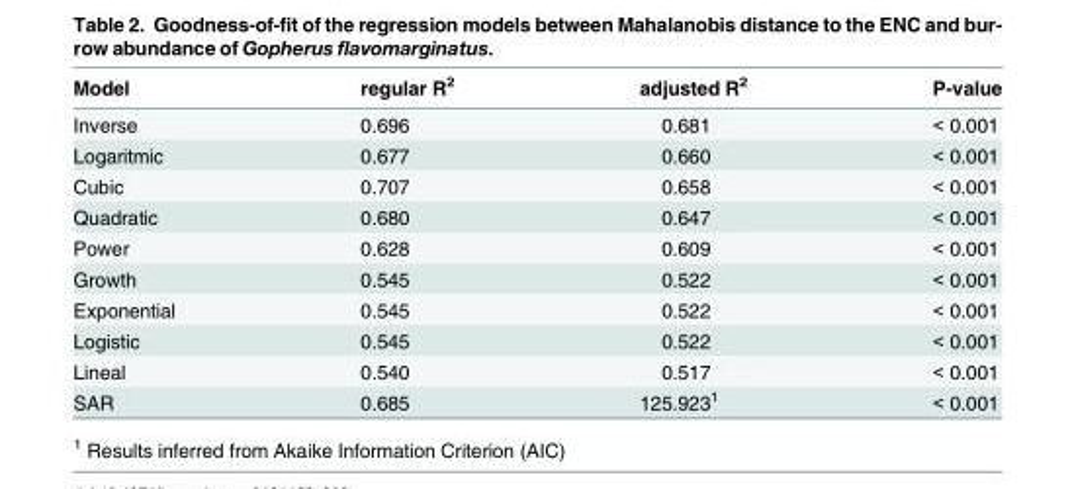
<table><thead><tr><td>Model</td><td>regular R<sup>2</sup></td><td>adjusted R<sup>2</sup></td><td>P-value</td></tr></thead><tbody><tr><td>Inverse</td><td>0.696</td><td>0.681</td><td>&lt; 0.001</td></tr><tr><td>Logaritmic</td><td>0.677</td><td>0.660</td><td>&lt; 0.001</td></tr><tr><td>Cubic</td><td>0.707</td><td>0.658</td><td>&lt; 0.001</td></tr><tr><td>Quadratic</td><td>0.680</td><td>0.647</td><td>&lt; 0.001</td></tr><tr><td>Power</td><td>0.628</td><td>0.609</td><td>&lt; 0.001</td></tr><tr><td>Growth</td><td>0.545</td><td>0.522</td><td>&lt; 0.001</td></tr><tr><td>Exponential</td><td>0.545</td><td>0.522</td><td>&lt; 0.001</td></tr><tr><td>Logistic</td><td>0.545</td><td>0.522</td><td>&lt; 0.001</td></tr><tr><td>Lineal</td><td>0.540</td><td>0.517</td><td>&lt; 0.001</td></tr><tr><td>SAR</td><td>0.685</td><td>125.923<sup>1</sup></td><td>&lt; 0.001</td></tr></tbody></table>